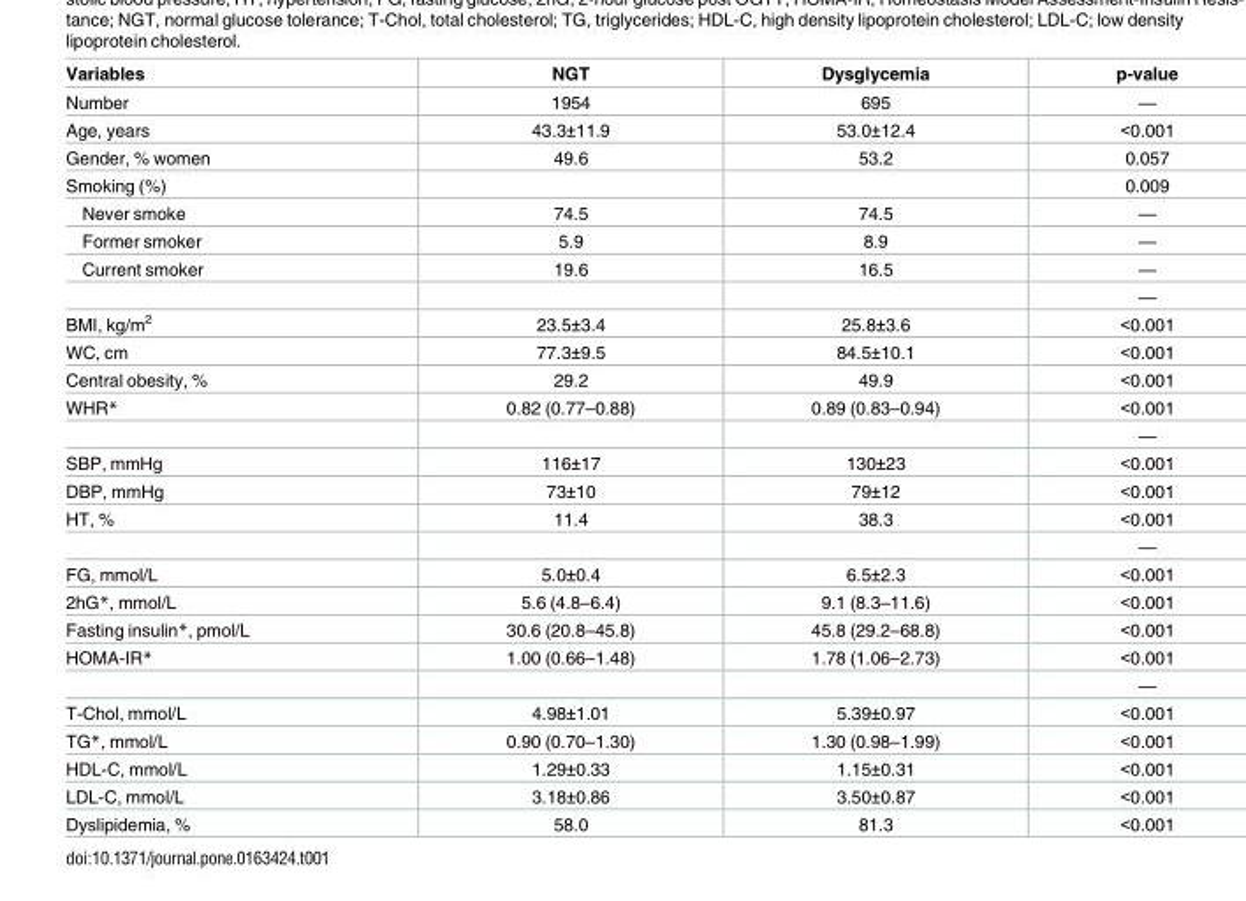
<table><thead><tr><td>Variables</td><td>NGT</td><td>Dysglycemia</td><td>p-value</td></tr></thead><tbody><tr><td>Number</td><td>1954</td><td>695</td><td>—</td></tr><tr><td>Age, years</td><td>43.3±11.9</td><td>53.0±12.4</td><td>&lt;0.001</td></tr><tr><td>Gender, % women</td><td>49.6</td><td>53.2</td><td>0.057</td></tr><tr><td>Smoking (%)</td><td></td><td></td><td>0.009</td></tr><tr><td>Never smoke</td><td>74.5</td><td>74.5</td><td>—</td></tr><tr><td>Former smoker</td><td>5.9</td><td>8.9</td><td>—</td></tr><tr><td rowspan="2">Current smoker</td><td>19.6</td><td>16.5</td><td>—</td></tr><tr><td></td><td></td><td>—</td></tr><tr><td>BMI, kg/m<sup>2</sup></td><td>23.5±3.4</td><td>25.8±3.6</td><td>&lt;0.001</td></tr><tr><td>WC, cm</td><td>77.3±9.5</td><td>84.5±10.1</td><td>&lt;0.001</td></tr><tr><td>Central obesity, %</td><td>29.2</td><td>49.9</td><td>&lt;0.001</td></tr><tr><td rowspan="2">WHR*</td><td>0.82 (0.77–0.88)</td><td>0.89 (0.83–0.94)</td><td>&lt;0.001</td></tr><tr><td></td><td></td><td>—</td></tr><tr><td>SBP, mmHg</td><td>116±17</td><td>130±23</td><td>&lt;0.001</td></tr><tr><td>DBP, mmHg</td><td>73±10</td><td>79±12</td><td>&lt;0.001</td></tr><tr><td rowspan="2">HT, %</td><td>11.4</td><td>38.3</td><td>&lt;0.001</td></tr><tr><td></td><td></td><td>—</td></tr><tr><td>FG, mmol/L</td><td>5.0±0.4</td><td>6.5±2.3</td><td>&lt;0.001</td></tr><tr><td>2hG*, mmol/L</td><td>5.6 (4.8–6.4)</td><td>9.1 (8.3–11.6)</td><td>&lt;0.001</td></tr><tr><td>Fasting insulin*, pmol/L</td><td>30.6 (20.8–45.8)</td><td>45.8 (29.2–68.8)</td><td>&lt;0.001</td></tr><tr><td rowspan="2">HOMA-IR*</td><td>1.00 (0.66–1.48)</td><td>1.78 (1.06–2.73)</td><td>&lt;0.001</td></tr><tr><td></td><td></td><td>—</td></tr><tr><td>T-Chol, mmol/L</td><td>4.98±1.01</td><td>5.39±0.97</td><td>&lt;0.001</td></tr><tr><td>TG*, mmol/L</td><td>0.90 (0.70–1.30)</td><td>1.30 (0.98–1.99)</td><td>&lt;0.001</td></tr><tr><td>HDL-C, mmol/L</td><td>1.29±0.33</td><td>1.15±0.31</td><td>&lt;0.001</td></tr><tr><td>LDL-C, mmol/L</td><td>3.18±0.86</td><td>3.50±0.87</td><td>&lt;0.001</td></tr><tr><td>Dyslipidemia, %</td><td>58.0</td><td>81.3</td><td>&lt;0.001</td></tr></tbody></table>